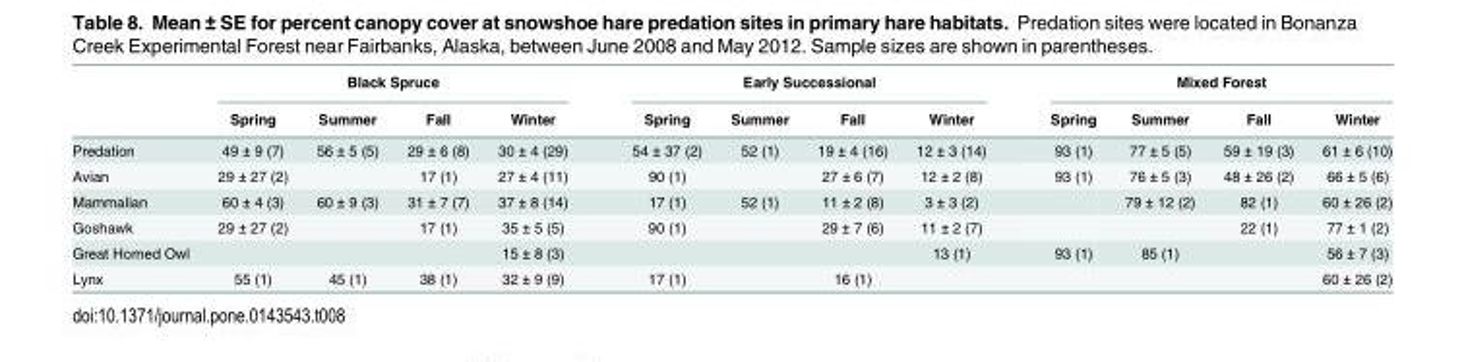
<table><thead><tr><td rowspan="2"></td><td colspan="4">Black Spruce</td><td colspan="4">Early Successional</td><td colspan="4">Mixed Forest</td></tr><tr><td>Spring</td><td>Summer</td><td>Fall</td><td>Winter</td><td>Spring</td><td>Summer</td><td>Fall</td><td>Winter</td><td>Spring</td><td>Summer</td><td>Fall</td><td>Winter</td></tr></thead><tbody><tr><td>Predation</td><td>49 ± 9 (7)</td><td>56 ± 5 (5)</td><td>29 ± 6 (8)</td><td>30 ± 4 (29)</td><td>54 ± 37 (2)</td><td>52 (1)</td><td>19 ± 4 (16)</td><td>12 ± 3 (14)</td><td>93 (1)</td><td>77 ± 5 (5)</td><td>59 ± 19 (3)</td><td>61 ± 6 (10)</td></tr><tr><td>Avian</td><td>29 ± 27 (2)</td><td></td><td>17 (1)</td><td>27 ± 4 (11)</td><td>90 (1)</td><td></td><td>27 ± 6 (7)</td><td>12 ± 2 (8)</td><td>93 (1)</td><td>76 ± 5 (3)</td><td>48 ± 26 (2)</td><td>66 ± 5 (6)</td></tr><tr><td>Mammalian</td><td>60 ± 4 (3)</td><td>60 ± 9 (3)</td><td>31 ± 7 (7)</td><td>37 ± 8 (14)</td><td>17 (1)</td><td>52 (1)</td><td>11 ± 2 (8)</td><td>3 ± 3 (2)</td><td></td><td>79 ± 12 (2)</td><td>82 (1)</td><td>60 ± 26 (2)</td></tr><tr><td>Goshawk</td><td>29 ± 27 (2)</td><td></td><td>17 (1)</td><td>35 ± 5 (5)</td><td>90 (1)</td><td></td><td>29 ± 7 (6)</td><td>11 ± 2 (7)</td><td></td><td></td><td>22 (1)</td><td>77 ± 1 (2)</td></tr><tr><td>Great Horned Owl</td><td></td><td></td><td></td><td>15 ± 8 (3)</td><td></td><td></td><td></td><td>13 (1)</td><td>93 (1)</td><td>85 (1)</td><td></td><td>56 ± 7 (3)</td></tr><tr><td>Lynx</td><td>55 (1)</td><td>45 (1)</td><td>38 (1)</td><td>32 ± 9 (9)</td><td>17 (1)</td><td></td><td>16 (1)</td><td></td><td></td><td></td><td></td><td>60 ± 26 (2)</td></tr></tbody></table>